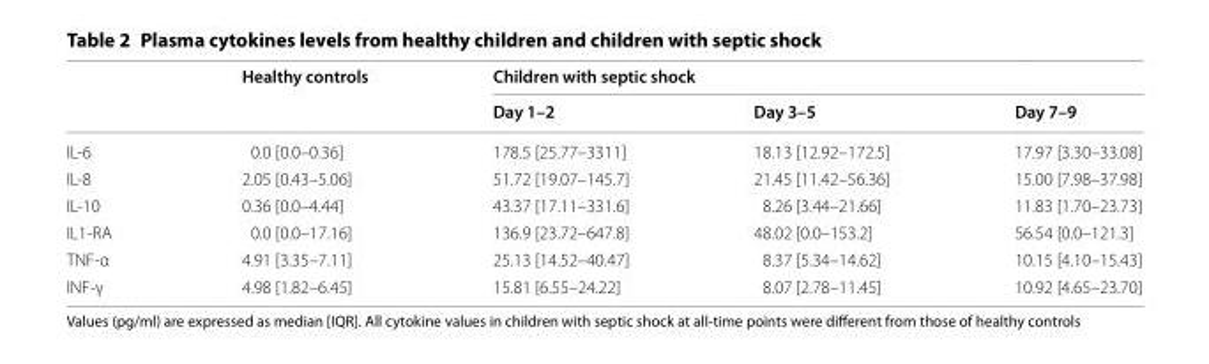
<table><thead><tr><td rowspan="2"></td><td rowspan="2">Healthy controls</td><td colspan="3">Children with septic shock</td></tr><tr><td>Day 1–2</td><td>Day 3–5</td><td>Day 7–9</td></tr></thead><tbody><tr><td>IL‑6</td><td>0.0 [0.0–0.36]</td><td>178.5 [25.77–3311]</td><td>18.13 [12.92–172.5]</td><td>17.97 [3.30–33.08]</td></tr><tr><td>IL‑8</td><td>2.05 [0.43–5.06]</td><td>51.72 [19.07–145.7]</td><td>21.45 [11.42–56.36]</td><td>15.00 [7.98–37.98]</td></tr><tr><td>IL‑10</td><td>0.36 [0.0–4.44]</td><td>43.37 [17.11–331.6]</td><td>8.26 [3.44–21.66]</td><td>11.83 [1.70–23.73]</td></tr><tr><td>IL1‑RA</td><td>0.0 [0.0–17.16]</td><td>136.9 [23.72–647.8]</td><td>48.02 [0.0–153.2]</td><td>56.54 [0.0–121.3]</td></tr><tr><td>TNF‑α</td><td>4.91 [3.35–7.11]</td><td>25.13 [14.52–40.47]</td><td>8.37 [5.34–14.62]</td><td>10.15 [4.10–15.43]</td></tr><tr><td>INF‑γ</td><td>4.98 [1.82–6.45]</td><td>15.81 [6.55–24.22]</td><td>8.07 [2.78–11.45]</td><td>10.92 [4.65–23.70]</td></tr></tbody></table>